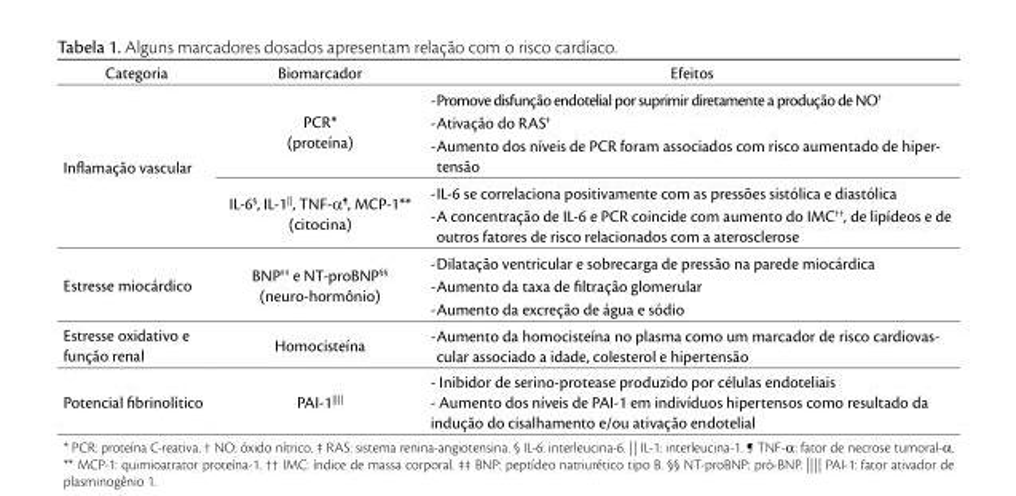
<table><thead><tr><td>Categoria</td><td>Biomarcador</td><td>Efeitos</td></tr></thead><tbody><tr><td rowspan="2">Inflamação vascular</td><td>PCR* (proteína)</td><td>- Promove disfunção endotelial por suprimir diretamente a produção de NO† - Ativação do RAS‡ - Aumento dos níveis de PCR foram associados com risco aumentado de hiper- tensão</td></tr><tr><td>IL-6<sup>§</sup>, IL-1||, TNF-α<sup>¶</sup>, MCP-1** (citocina)</td><td>- IL-6 se correlaciona positivamente com as pressões sistólica e diastólica - A concentração de IL-6 e PCR coincide com aumento do IMC<sup>††</sup>, de lipídeos e de outros fatores de risco relacionados com a aterosclerose</td></tr><tr><td>Estresse miocárdico</td><td>BNP<sup>‡‡</sup> e NT-proBNP<sup>§§</sup> (neuro-hormônio)</td><td>- Dilatação ventricular e sobrecarga de pressão na parede miocárdica - Aumento da taxa de filtração glomerular - Aumento da excreção de água e sódio</td></tr><tr><td>Estresse oxidativo e função renal</td><td>Homocisteína</td><td>- Aumento da homocisteína no plasma como um marcador de risco cardiovas- cular associado a idade, colesterol e hipertensão</td></tr><tr><td>Potencial fibrinolítico</td><td>PAI-1||||</td><td>- Inibidor de serino-protease produzido por células endoteliais - Aumento dos níveis de PAI-1 em indivíduos hipertensos como resultado da indução do cisalhamento e/ou ativação endotelial</td></tr></tbody></table>